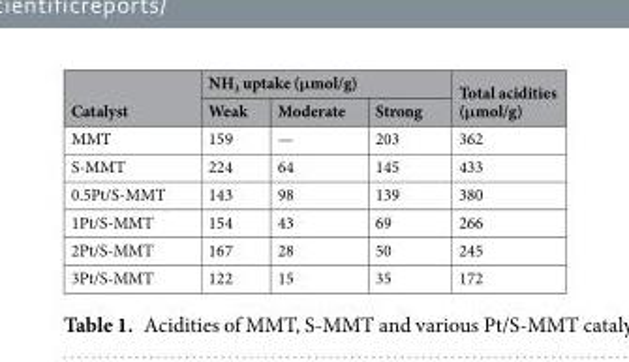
<table><thead><tr><td rowspan="2">Catalyst</td><td colspan="3">NH<sub>3</sub> uptake (μmol/g)</td><td rowspan="2">Total acidities (μmol/g)</td></tr><tr><td>Weak</td><td>Moderate</td><td>Strong</td></tr></thead><tbody><tr><td>MMT</td><td>159</td><td>—</td><td>203</td><td>362</td></tr><tr><td>S-MMT</td><td>224</td><td>64</td><td>145</td><td>433</td></tr><tr><td>0.5Pt/S-MMT</td><td>143</td><td>98</td><td>139</td><td>380</td></tr><tr><td>1Pt/S-MMT</td><td>154</td><td>43</td><td>69</td><td>266</td></tr><tr><td>2Pt/S-MMT</td><td>167</td><td>28</td><td>50</td><td>245</td></tr><tr><td>3Pt/S-MMT</td><td>122</td><td>15</td><td>35</td><td>172</td></tr></tbody></table>